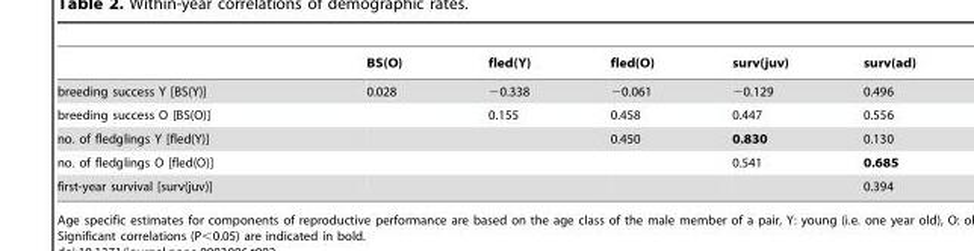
<table><thead><tr><td></td><td>BS(O)</td><td>fled(Y)</td><td>fled(O)</td><td>surv(juv)</td><td>surv(ad)</td></tr></thead><tbody><tr><td>breeding success Y [BS(Y)]</td><td>0.028</td><td>−0.338</td><td>−0.061</td><td>−0.129</td><td>0.496</td></tr><tr><td>breeding success O [BS(O)]</td><td></td><td>0.155</td><td>0.458</td><td>0.447</td><td>0.556</td></tr><tr><td>no. of fledglings Y [fled(Y)]</td><td></td><td></td><td>0.450</td><td>0.830</td><td>0.130</td></tr><tr><td>no. of fledglings O [fled(O)]</td><td></td><td></td><td></td><td>0.541</td><td>0.685</td></tr><tr><td>first-year survival [surv(juv)]</td><td></td><td></td><td></td><td></td><td>0.394</td></tr></tbody></table>